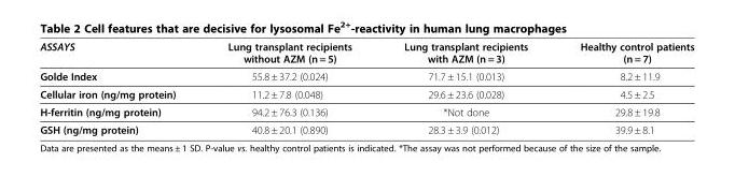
<table><thead><tr><td>ASSAYS</td><td>Lung transplant recipients without AZM (n = 5)</td><td>Lung transplant recipients with AZM (n = 3)</td><td>Healthy control patients (n = 7)</td></tr></thead><tbody><tr><td>Golde Index</td><td>55.8 ± 37.2 (0.024)</td><td>71.7 ± 15.1 (0.013)</td><td>8.2 ± 11.9</td></tr><tr><td>Cellular iron (ng/mg protein)</td><td>11.2 ± 7.8 (0.048)</td><td>29.6 ± 23.6 (0.028)</td><td>4.5 ± 2.5</td></tr><tr><td>H-ferritin (ng/mg protein)</td><td>94.2 ± 76.3 (0.136)</td><td>*Not done</td><td>29.8 ± 19.8</td></tr><tr><td>GSH (ng/mg protein)</td><td>40.8 ± 20.1 (0.890)</td><td>28.3 ± 3.9 (0.012)</td><td>39.9 ± 8.1</td></tr></tbody></table>